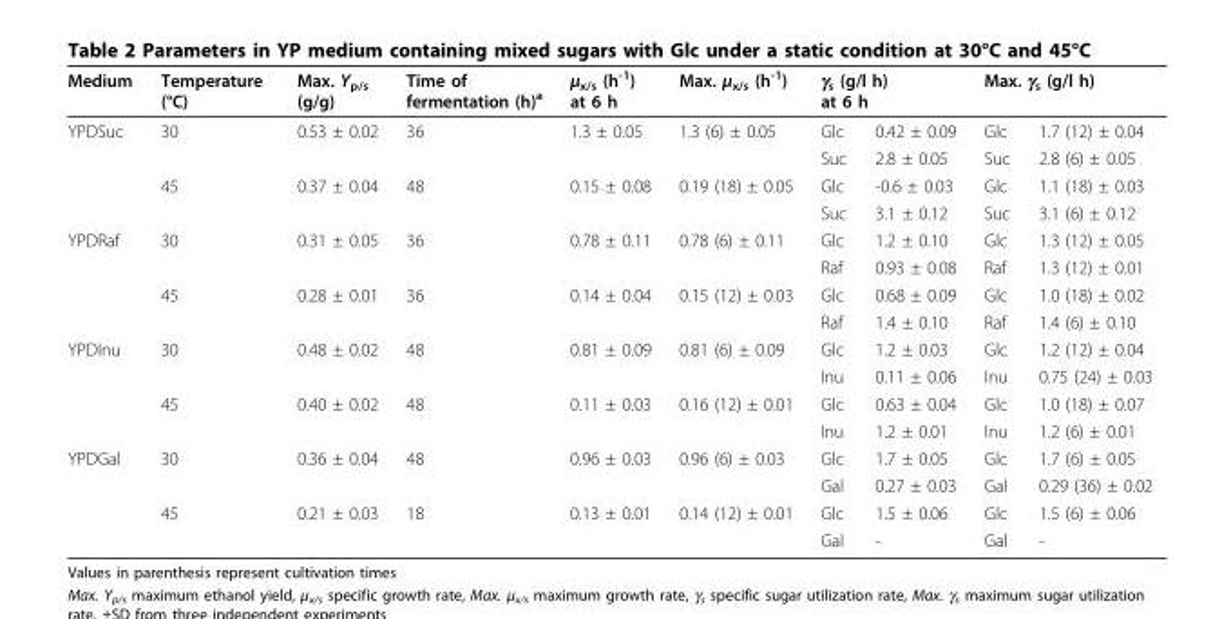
<table><thead><tr><td rowspan="2">Medium YPDSuc</td><td rowspan="2">Temperature (°C) 30</td><td rowspan="2">Max. Y<sub>p/s</sub> (g/g) 0.53 ± 0.02</td><td rowspan="2">Time of fermentation (h)<sup>a</sup> 36</td><td rowspan="2">μ<sub>x/s</sub> (h<sup>-1</sup>) at 6 h 1.3 ± 0.05</td><td rowspan="2">Max. μ<sub>x/s</sub> (h<sup>-1</sup>) 1.3 (6) ± 0.05</td><td colspan="2">γ<sub>s</sub> (g/l h) at 6 h</td><td colspan="2">Max. γ<sub>s</sub> (g/l h)</td></tr><tr><td>Glc</td><td>0.42 ± 0.09</td><td>Glc</td><td>1.7 (12) ± 0.04</td></tr></thead><tbody><tr><td></td><td></td><td></td><td></td><td></td><td></td><td>Suc</td><td>2.8 ± 0.05</td><td>Suc</td><td>2.8 (6) ± 0.05</td></tr><tr><td></td><td>45</td><td>0.37 ± 0.04</td><td>48</td><td>0.15 ± 0.08</td><td>0.19 (18) ± 0.05</td><td>Glc</td><td>-0.6 ± 0.03</td><td>Glc</td><td>1.1 (18) ± 0.03</td></tr><tr><td></td><td></td><td></td><td></td><td></td><td></td><td>Suc</td><td>3.1 ± 0.12</td><td>Suc</td><td>3.1 (6) ± 0.12</td></tr><tr><td rowspan="4">YPDRaf</td><td>30</td><td>0.31 ± 0.05</td><td>36</td><td>0.78 ± 0.11</td><td>0.78 (6) ± 0.11</td><td>Glc</td><td>1.2 ± 0.10</td><td>Glc</td><td>1.3 (12) ± 0.05</td></tr><tr><td></td><td></td><td></td><td></td><td></td><td>Raf</td><td>0.93 ± 0.08</td><td>Raf</td><td>1.3 (12) ± 0.01</td></tr><tr><td>45</td><td>0.28 ± 0.01</td><td>36</td><td>0.14 ± 0.04</td><td>0.15 (12) ± 0.03</td><td>Glc</td><td>0.68 ± 0.09</td><td>Glc</td><td>1.0 (18) ± 0.02</td></tr><tr><td></td><td></td><td></td><td></td><td></td><td>Raf</td><td>1.4 ± 0.10</td><td>Raf</td><td>1.4 (6) ± 0.10</td></tr><tr><td rowspan="4">YPDInu</td><td>30</td><td>0.48 ± 0.02</td><td>48</td><td>0.81 ± 0.09</td><td>0.81 (6) ± 0.09</td><td>Glc</td><td>1.2 ± 0.03</td><td>Glc</td><td>1.2 (12) ± 0.04</td></tr><tr><td></td><td></td><td></td><td></td><td></td><td>Inu</td><td>0.11 ± 0.06</td><td>Inu</td><td>0.75 (24) ± 0.03</td></tr><tr><td>45</td><td>0.40 ± 0.02</td><td>48</td><td>0.11 ± 0.03</td><td>0.16 (12) ± 0.01</td><td>Glc</td><td>0.63 ± 0.04</td><td>Glc</td><td>1.0 (18) ± 0.07</td></tr><tr><td></td><td></td><td></td><td></td><td></td><td>Inu</td><td>1.2 ± 0.01</td><td>Inu</td><td>1.2 (6) ± 0.01</td></tr><tr><td rowspan="4">YPDGal</td><td>30</td><td>0.36 ± 0.04</td><td>48</td><td>0.96 ± 0.03</td><td>0.96 (6) ± 0.03</td><td>Glc</td><td>1.7 ± 0.05</td><td>Glc</td><td>1.7 (6) ± 0.05</td></tr><tr><td></td><td></td><td></td><td></td><td></td><td>Gal</td><td>0.27 ± 0.03</td><td>Gal</td><td>0.29 (36) ± 0.02</td></tr><tr><td>45</td><td>0.21 ± 0.03</td><td>18</td><td>0.13 ± 0.01</td><td>0.14 (12) ± 0.01</td><td>Glc</td><td>1.5 ± 0.06</td><td>Glc</td><td>1.5 (6) ± 0.06</td></tr><tr><td></td><td></td><td></td><td></td><td></td><td>Gal</td><td>-</td><td>Gal</td><td>-</td></tr></tbody></table>